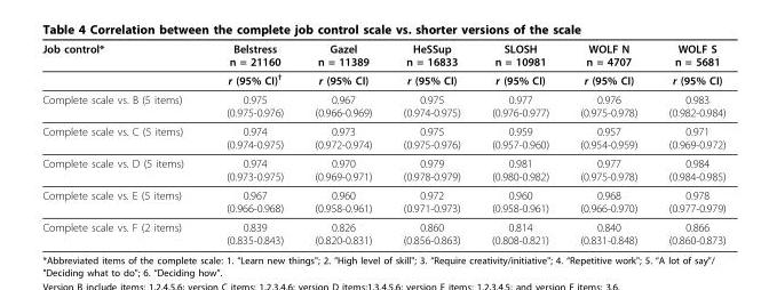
<table><thead><tr><td>Job control*</td><td>Belstress n = 21160</td><td>Gazel n = 11389</td><td>HeSSup n = 16833</td><td>SLOSH n = 10981</td><td>WOLF N n = 4707</td><td>WOLF S n = 5681</td></tr></thead><tbody><tr><td></td><td>r (95% CI)<sup>†</sup></td><td>r (95% CI)</td><td>r (95% CI)</td><td>r (95% CI)</td><td>r (95% CI)</td><td>r (95% CI)</td></tr><tr><td>Complete scale vs. B (5 items)</td><td>0.975 (0.975-0.976)</td><td>0.967 (0.966-0.969)</td><td>0.975 (0.974-0.975)</td><td>0.977 (0.976-0.977)</td><td>0.976 (0.975-0.978)</td><td>0.983 (0.982-0.984)</td></tr><tr><td>Complete scale vs. C (5 items)</td><td>0.974 (0.974-0.975)</td><td>0.973 (0.972-0.974)</td><td>0.975 (0.975-0.976)</td><td>0.959 (0.957-0.960)</td><td>0.957 (0.954-0.959)</td><td>0.971 (0.969-0.972)</td></tr><tr><td>Complete scale vs. D (5 items)</td><td>0.974 (0.973-0.975)</td><td>0.970 (0.969-0.971)</td><td>0.979 (0.978-0.979)</td><td>0.981 (0.980-0.982)</td><td>0.977 (0.975-0.978)</td><td>0.984 (0.984-0.985)</td></tr><tr><td>Complete scale vs. E (5 items)</td><td>0.967 (0.966-0.968)</td><td>0.960 (0.958-0.961)</td><td>0.972 (0.971-0.973)</td><td>0.960 (0.958-0.961)</td><td>0.968 (0.966-0.970)</td><td>0.978 (0.977-0.979)</td></tr><tr><td>Complete scale vs. F (2 items)</td><td>0.839 (0.835-0.843)</td><td>0.826 (0.820-0.831)</td><td>0.860 (0.856-0.863)</td><td>0.814 (0.808-0.821)</td><td>0.840 (0.831-0.848)</td><td>0.866 (0.860-0.873)</td></tr></tbody></table>